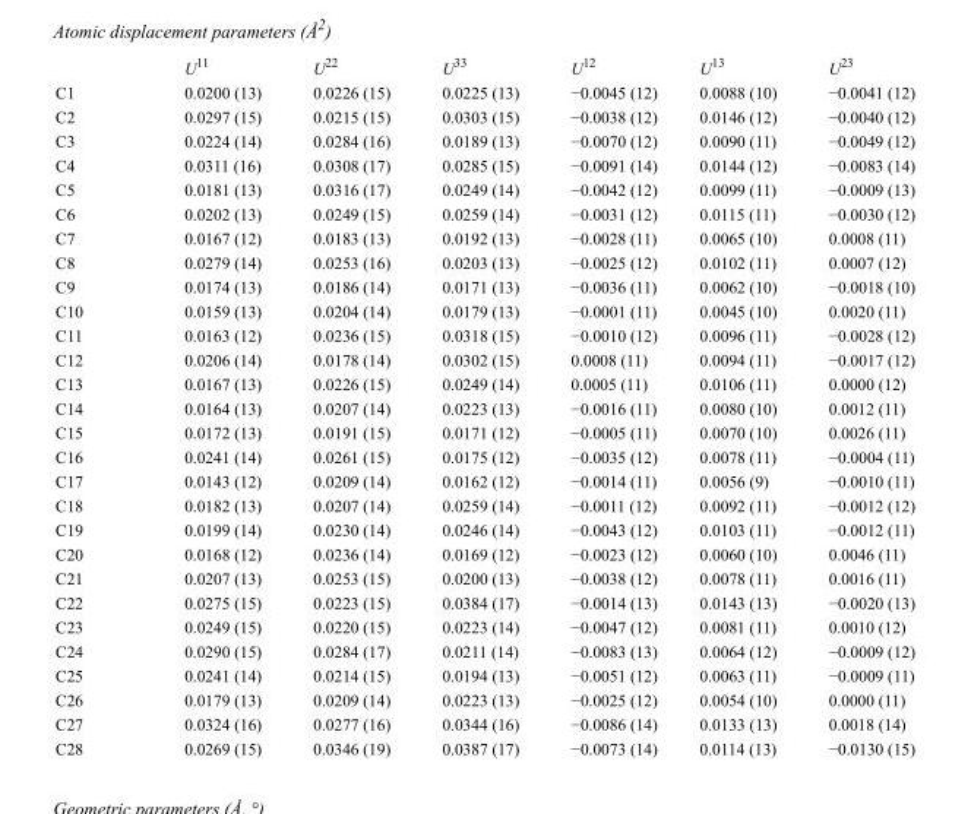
<table><thead><tr><td></td><td>U<sup>11</sup></td><td>U<sup>22</sup></td><td>U<sup>33</sup></td><td>U<sup>12</sup></td><td>U<sup>13</sup></td><td>U<sup>23</sup></td></tr></thead><tbody><tr><td>C1</td><td>0.0200 (13)</td><td>0.0226 (15)</td><td>0.0225 (13)</td><td>−0.0045 (12)</td><td>0.0088 (10)</td><td>−0.0041 (12)</td></tr><tr><td>C2</td><td>0.0297 (15)</td><td>0.0215 (15)</td><td>0.0303 (15)</td><td>−0.0038 (12)</td><td>0.0146 (12)</td><td>−0.0040 (12)</td></tr><tr><td>C3</td><td>0.0224 (14)</td><td>0.0284 (16)</td><td>0.0189 (13)</td><td>−0.0070 (12)</td><td>0.0090 (11)</td><td>−0.0049 (12)</td></tr><tr><td>C4</td><td>0.0311 (16)</td><td>0.0308 (17)</td><td>0.0285 (15)</td><td>−0.0091 (14)</td><td>0.0144 (12)</td><td>−0.0083 (14)</td></tr><tr><td>C5</td><td>0.0181 (13)</td><td>0.0316 (17)</td><td>0.0249 (14)</td><td>−0.0042 (12)</td><td>0.0099 (11)</td><td>−0.0009 (13)</td></tr><tr><td>C6</td><td>0.0202 (13)</td><td>0.0249 (15)</td><td>0.0259 (14)</td><td>−0.0031 (12)</td><td>0.0115 (11)</td><td>−0.0030 (12)</td></tr><tr><td>C7</td><td>0.0167 (12)</td><td>0.0183 (13)</td><td>0.0192 (13)</td><td>−0.0028 (11)</td><td>0.0065 (10)</td><td>0.0008 (11)</td></tr><tr><td>C8</td><td>0.0279 (14)</td><td>0.0253 (16)</td><td>0.0203 (13)</td><td>−0.0025 (12)</td><td>0.0102 (11)</td><td>0.0007 (12)</td></tr><tr><td>C9</td><td>0.0174 (13)</td><td>0.0186 (14)</td><td>0.0171 (13)</td><td>−0.0036 (11)</td><td>0.0062 (10)</td><td>−0.0018 (10)</td></tr><tr><td>C10</td><td>0.0159 (13)</td><td>0.0204 (14)</td><td>0.0179 (13)</td><td>−0.0001 (11)</td><td>0.0045 (10)</td><td>0.0020 (11)</td></tr><tr><td>C11</td><td>0.0163 (12)</td><td>0.0236 (15)</td><td>0.0318 (15)</td><td>−0.0010 (12)</td><td>0.0096 (11)</td><td>−0.0028 (12)</td></tr><tr><td>C12</td><td>0.0206 (14)</td><td>0.0178 (14)</td><td>0.0302 (15)</td><td>0.0008 (11)</td><td>0.0094 (11)</td><td>−0.0017 (12)</td></tr><tr><td>C13</td><td>0.0167 (13)</td><td>0.0226 (15)</td><td>0.0249 (14)</td><td>0.0005 (11)</td><td>0.0106 (11)</td><td>0.0000 (12)</td></tr><tr><td>C14</td><td>0.0164 (13)</td><td>0.0207 (14)</td><td>0.0223 (13)</td><td>−0.0016 (11)</td><td>0.0080 (10)</td><td>0.0012 (11)</td></tr><tr><td>C15</td><td>0.0172 (13)</td><td>0.0191 (15)</td><td>0.0171 (12)</td><td>−0.0005 (11)</td><td>0.0070 (10)</td><td>0.0026 (11)</td></tr><tr><td>C16</td><td>0.0241 (14)</td><td>0.0261 (15)</td><td>0.0175 (12)</td><td>−0.0035 (12)</td><td>0.0078 (11)</td><td>−0.0004 (11)</td></tr><tr><td>C17</td><td>0.0143 (12)</td><td>0.0209 (14)</td><td>0.0162 (12)</td><td>−0.0014 (11)</td><td>0.0056 (9)</td><td>−0.0010 (11)</td></tr><tr><td>C18</td><td>0.0182 (13)</td><td>0.0207 (14)</td><td>0.0259 (14)</td><td>−0.0011 (12)</td><td>0.0092 (11)</td><td>−0.0012 (12)</td></tr><tr><td>C19</td><td>0.0199 (14)</td><td>0.0230 (14)</td><td>0.0246 (14)</td><td>−0.0043 (12)</td><td>0.0103 (11)</td><td>−0.0012 (11)</td></tr><tr><td>C20</td><td>0.0168 (12)</td><td>0.0236 (14)</td><td>0.0169 (12)</td><td>−0.0023 (12)</td><td>0.0060 (10)</td><td>0.0046 (11)</td></tr><tr><td>C21</td><td>0.0207 (13)</td><td>0.0253 (15)</td><td>0.0200 (13)</td><td>−0.0038 (12)</td><td>0.0078 (11)</td><td>0.0016 (11)</td></tr><tr><td>C22</td><td>0.0275 (15)</td><td>0.0223 (15)</td><td>0.0384 (17)</td><td>−0.0014 (13)</td><td>0.0143 (13)</td><td>−0.0020 (13)</td></tr><tr><td>C23</td><td>0.0249 (15)</td><td>0.0220 (15)</td><td>0.0223 (14)</td><td>−0.0047 (12)</td><td>0.0081 (11)</td><td>0.0010 (12)</td></tr><tr><td>C24</td><td>0.0290 (15)</td><td>0.0284 (17)</td><td>0.0211 (14)</td><td>−0.0083 (13)</td><td>0.0064 (12)</td><td>−0.0009 (12)</td></tr><tr><td>C25</td><td>0.0241 (14)</td><td>0.0214 (15)</td><td>0.0194 (13)</td><td>−0.0051 (12)</td><td>0.0063 (11)</td><td>−0.0009 (11)</td></tr><tr><td>C26</td><td>0.0179 (13)</td><td>0.0209 (14)</td><td>0.0223 (13)</td><td>−0.0025 (12)</td><td>0.0054 (10)</td><td>0.0000 (11)</td></tr><tr><td>C27</td><td>0.0324 (16)</td><td>0.0277 (16)</td><td>0.0344 (16)</td><td>−0.0086 (14)</td><td>0.0133 (13)</td><td>0.0018 (14)</td></tr><tr><td>C28</td><td>0.0269 (15)</td><td>0.0346 (19)</td><td>0.0387 (17)</td><td>−0.0073 (14)</td><td>0.0114 (13)</td><td>−0.0130 (15)</td></tr></tbody></table>